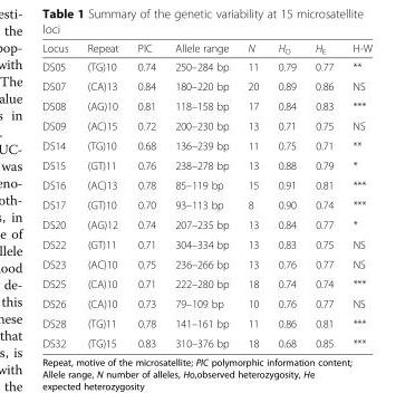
<table><thead><tr><td>Locus</td><td>Repeat</td><td>PIC</td><td>Allele range</td><td>N</td><td>H<sub>O</sub></td><td>H<sub>E</sub></td><td>H-W</td></tr></thead><tbody><tr><td>DS05</td><td>(TG)10</td><td>0.74</td><td>250–284 bp</td><td>11</td><td>0.79</td><td>0.77</td><td>**</td></tr><tr><td>DS07</td><td>(CA)13</td><td>0.84</td><td>180–220 bp</td><td>20</td><td>0.89</td><td>0.86</td><td>NS</td></tr><tr><td>DS08</td><td>(AG)10</td><td>0.81</td><td>118–158 bp</td><td>17</td><td>0.84</td><td>0.83</td><td>***</td></tr><tr><td>DS09</td><td>(AC)15</td><td>0.72</td><td>200–230 bp</td><td>13</td><td>0.71</td><td>0.75</td><td>NS</td></tr><tr><td>DS14</td><td>(TG)10</td><td>0.68</td><td>136–239 bp</td><td>11</td><td>0.75</td><td>0.71</td><td>**</td></tr><tr><td>DS15</td><td>(GT)11</td><td>0.76</td><td>238–278 bp</td><td>13</td><td>0.88</td><td>0.79</td><td>*</td></tr><tr><td>DS16</td><td>(AC)13</td><td>0.78</td><td>85–119 bp</td><td>15</td><td>0.91</td><td>0.81</td><td>***</td></tr><tr><td>DS17</td><td>(GT)10</td><td>0.70</td><td>93–113 bp</td><td>8</td><td>0.90</td><td>0.74</td><td>***</td></tr><tr><td>DS20</td><td>(AG)12</td><td>0.74</td><td>207–235 bp</td><td>13</td><td>0.84</td><td>0.77</td><td>*</td></tr><tr><td>DS22</td><td>(GT)11</td><td>0.71</td><td>304–334 bp</td><td>13</td><td>0.83</td><td>0.75</td><td>NS</td></tr><tr><td>DS23</td><td>(AC)10</td><td>0.75</td><td>236–266 bp</td><td>13</td><td>0.76</td><td>0.77</td><td>NS</td></tr><tr><td>DS25</td><td>(CA)10</td><td>0.71</td><td>222–280 bp</td><td>18</td><td>0.74</td><td>0.74</td><td>***</td></tr><tr><td>DS26</td><td>(CA)10</td><td>0.73</td><td>79–109 bp</td><td>10</td><td>0.76</td><td>0.77</td><td>NS</td></tr><tr><td>DS28</td><td>(TG)11</td><td>0.78</td><td>141–161 bp</td><td>11</td><td>0.86</td><td>0.81</td><td>***</td></tr><tr><td>DS32</td><td>(TG)15</td><td>0.83</td><td>310–376 bp</td><td>18</td><td>0.68</td><td>0.85</td><td>***</td></tr></tbody></table>